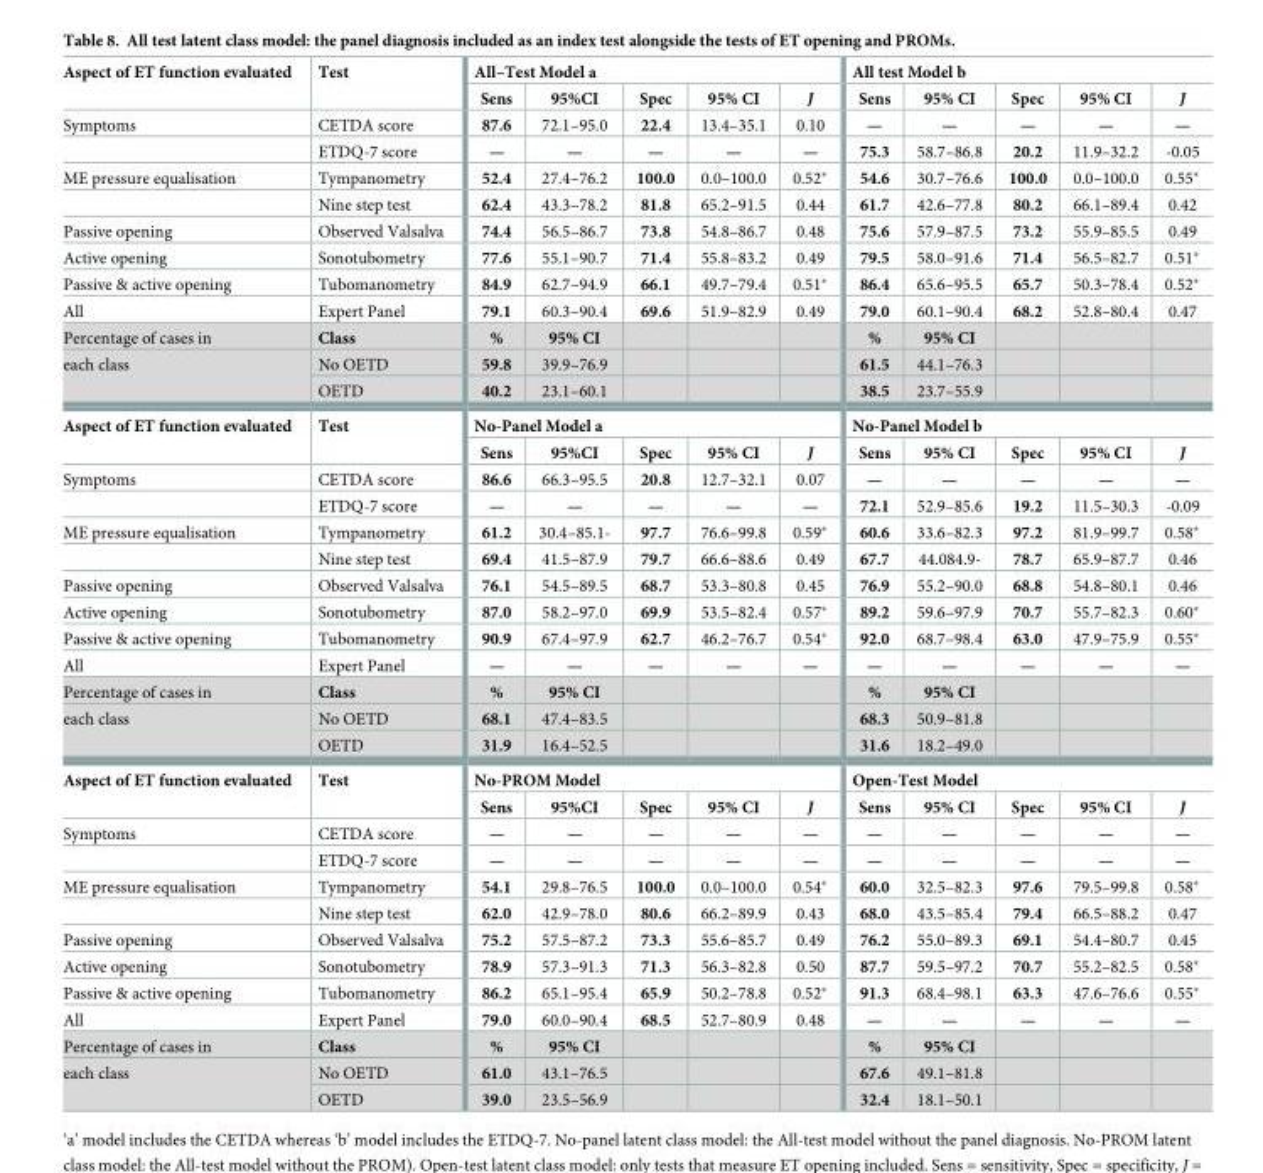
<table><tbody><tr><td rowspan="2">Aspect of ET function evaluated</td><td rowspan="2">Test</td><td colspan="5">All–Test Model a</td><td colspan="5">All test Model b</td></tr><tr><td>Sens</td><td>95%CI</td><td>Spec</td><td>95% CI</td><td>J</td><td>Sens</td><td>95% CI</td><td>Spec</td><td>95% CI</td><td>J</td></tr><tr><td rowspan="2">Symptoms</td><td>CETDA score</td><td>87.6</td><td>72.1–95.0</td><td>22.4</td><td>13.4–35.1</td><td>0.10</td><td>—</td><td>—</td><td>—</td><td>—</td><td>—</td></tr><tr><td>ETDQ-7 score</td><td>—</td><td>—</td><td>—</td><td>—</td><td>—</td><td>75.3</td><td>58.7–86.8</td><td>20.2</td><td>11.9–32.2</td><td>-0.05</td></tr><tr><td rowspan="2">ME pressure equalisation</td><td>Tympanometry</td><td>52.4</td><td>27.4–76.2</td><td>100.0</td><td>0.0–100.0</td><td>0.52*</td><td>54.6</td><td>30.7–76.6</td><td>100.0</td><td>0.0–100.0</td><td>0.55*</td></tr><tr><td>Nine step test</td><td>62.4</td><td>43.3–78.2</td><td>81.8</td><td>65.2–91.5</td><td>0.44</td><td>61.7</td><td>42.6–77.8</td><td>80.2</td><td>66.1–89.4</td><td>0.42</td></tr><tr><td>Passive opening</td><td>Observed Valsalva</td><td>74.4</td><td>56.5–86.7</td><td>73.8</td><td>54.8–86.7</td><td>0.48</td><td>75.6</td><td>57.9–87.5</td><td>73.2</td><td>55.9–85.5</td><td>0.49</td></tr><tr><td>Active opening</td><td>Sonotubometry</td><td>77.6</td><td>55.1–90.7</td><td>71.4</td><td>55.8–83.2</td><td>0.49</td><td>79.5</td><td>58.0–91.6</td><td>71.4</td><td>56.5–82.7</td><td>0.51*</td></tr><tr><td>Passive &amp; active opening</td><td>Tubomanometry</td><td>84.9</td><td>62.7–94.9</td><td>66.1</td><td>49.7–79.4</td><td>0.51*</td><td>86.4</td><td>65.6–95.5</td><td>65.7</td><td>50.3–78.4</td><td>0.52*</td></tr><tr><td>All</td><td>Expert Panel</td><td>79.1</td><td>60.3–90.4</td><td>69.6</td><td>51.9–82.9</td><td>0.49</td><td>79.0</td><td>60.1–90.4</td><td>68.2</td><td>52.8–80.4</td><td>0.47</td></tr><tr><td>Percentage of cases in</td><td>Class</td><td>%</td><td>95% CI</td><td></td><td></td><td></td><td>%</td><td>95% CI</td><td></td><td></td><td></td></tr><tr><td rowspan="2">each class</td><td>No OETD</td><td>59.8</td><td>39.9–76.9</td><td></td><td></td><td></td><td>61.5</td><td>44.1–76.3</td><td></td><td></td><td></td></tr><tr><td>OETD</td><td>40.2</td><td>23.1–60.1</td><td></td><td></td><td></td><td>38.5</td><td>23.7–55.9</td><td></td><td></td><td></td></tr><tr><td rowspan="2">Aspect of ET function evaluated</td><td rowspan="2">Test</td><td colspan="5">No-Panel Model a</td><td colspan="5">No-Panel Model b</td></tr><tr><td>Sens</td><td>95%CI</td><td>Spec</td><td>95% CI</td><td>J</td><td>Sens</td><td>95% CI</td><td>Spec</td><td>95% CI</td><td>J</td></tr><tr><td rowspan="2">Symptoms</td><td>CETDA score</td><td>86.6</td><td>66.3–95.5</td><td>20.8</td><td>12.7–32.1</td><td>0.07</td><td>—</td><td>—</td><td>—</td><td>—</td><td>—</td></tr><tr><td>ETDQ-7 score</td><td>—</td><td>—</td><td>—</td><td>—</td><td>—</td><td>72.1</td><td>52.9–85.6</td><td>19.2</td><td>11.5–30.3</td><td>-0.09</td></tr><tr><td rowspan="2">ME pressure equalisation</td><td>Tympanometry</td><td>61.2</td><td>30.4–85.1-</td><td>97.7</td><td>76.6–99.8</td><td>0.59*</td><td>60.6</td><td>33.6–82.3</td><td>97.2</td><td>81.9–99.7</td><td>0.58*</td></tr><tr><td>Nine step test</td><td>69.4</td><td>41.5–87.9</td><td>79.7</td><td>66.6–88.6</td><td>0.49</td><td>67.7</td><td>44.084.9-</td><td>78.7</td><td>65.9–87.7</td><td>0.46</td></tr><tr><td>Passive opening</td><td>Observed Valsalva</td><td>76.1</td><td>54.5–89.5</td><td>68.7</td><td>53.3–80.8</td><td>0.45</td><td>76.9</td><td>55.2–90.0</td><td>68.8</td><td>54.8–80.1</td><td>0.46</td></tr><tr><td>Active opening</td><td>Sonotubometry</td><td>87.0</td><td>58.2–97.0</td><td>69.9</td><td>53.5–82.4</td><td>0.57*</td><td>89.2</td><td>59.6–97.9</td><td>70.7</td><td>55.7–82.3</td><td>0.60*</td></tr><tr><td>Passive &amp; active opening</td><td>Tubomanometry</td><td>90.9</td><td>67.4–97.9</td><td>62.7</td><td>46.2–76.7</td><td>0.54*</td><td>92.0</td><td>68.7–98.4</td><td>63.0</td><td>47.9–75.9</td><td>0.55*</td></tr><tr><td>All</td><td>Expert Panel</td><td>—</td><td>—</td><td>—</td><td>—</td><td>—</td><td>—</td><td>—</td><td>—</td><td>—</td><td>—</td></tr><tr><td>Percentage of cases in</td><td>Class</td><td>%</td><td>95% CI</td><td></td><td></td><td></td><td>%</td><td>95% CI</td><td></td><td></td><td></td></tr><tr><td rowspan="2">each class</td><td>No OETD</td><td>68.1</td><td>47.4–83.5</td><td></td><td></td><td></td><td>68.3</td><td>50.9–81.8</td><td></td><td></td><td></td></tr><tr><td>OETD</td><td>31.9</td><td>16.4–52.5</td><td></td><td></td><td></td><td>31.6</td><td>18.2–49.0</td><td></td><td></td><td></td></tr><tr><td rowspan="2">Aspect of ET function evaluated</td><td rowspan="2">Test</td><td colspan="5">No-PROM Model</td><td colspan="5">Open-Test Model</td></tr><tr><td>Sens</td><td>95%CI</td><td>Spec</td><td>95% CI</td><td>J</td><td>Sens</td><td>95% CI</td><td>Spec</td><td>95% CI</td><td>J</td></tr><tr><td rowspan="2">Symptoms</td><td>CETDA score</td><td>—</td><td>—</td><td>—</td><td>—</td><td>—</td><td>—</td><td>—</td><td>—</td><td>—</td><td>—</td></tr><tr><td>ETDQ-7 score</td><td>—</td><td>—</td><td>—</td><td>—</td><td>—</td><td>—</td><td>—</td><td>—</td><td>—</td><td>—</td></tr><tr><td rowspan="2">ME pressure equalisation</td><td>Tympanometry</td><td>54.1</td><td>29.8–76.5</td><td>100.0</td><td>0.0–100.0</td><td>0.54*</td><td>60.0</td><td>32.5–82.3</td><td>97.6</td><td>79.5–99.8</td><td>0.58*</td></tr><tr><td>Nine step test</td><td>62.0</td><td>42.9–78.0</td><td>80.6</td><td>66.2–89.9</td><td>0.43</td><td>68.0</td><td>43.5–85.4</td><td>79.4</td><td>66.5–88.2</td><td>0.47</td></tr><tr><td>Passive opening</td><td>Observed Valsalva</td><td>75.2</td><td>57.5–87.2</td><td>73.3</td><td>55.6–85.7</td><td>0.49</td><td>76.2</td><td>55.0–89.3</td><td>69.1</td><td>54.4–80.7</td><td>0.45</td></tr><tr><td>Active opening</td><td>Sonotubometry</td><td>78.9</td><td>57.3–91.3</td><td>71.3</td><td>56.3–82.8</td><td>0.50</td><td>87.7</td><td>59.5–97.2</td><td>70.7</td><td>55.2–82.5</td><td>0.58*</td></tr><tr><td>Passive &amp; active opening</td><td>Tubomanometry</td><td>86.2</td><td>65.1–95.4</td><td>65.9</td><td>50.2–78.8</td><td>0.52*</td><td>91.3</td><td>68.4–98.1</td><td>63.3</td><td>47.6–76.6</td><td>0.55*</td></tr><tr><td>All</td><td>Expert Panel</td><td>79.0</td><td>60.0–90.4</td><td>68.5</td><td>52.7–80.9</td><td>0.48</td><td>—</td><td>—</td><td>—</td><td>—</td><td>—</td></tr><tr><td>Percentage of cases in</td><td>Class</td><td>%</td><td>95% CI</td><td></td><td></td><td></td><td>%</td><td>95% CI</td><td></td><td></td><td></td></tr><tr><td rowspan="2">each class</td><td>No OETD</td><td>61.0</td><td>43.1–76.5</td><td></td><td></td><td></td><td>67.6</td><td>49.1–81.8</td><td></td><td></td><td></td></tr><tr><td>OETD</td><td>39.0</td><td>23.5–56.9</td><td></td><td></td><td></td><td>32.4</td><td>18.1–50.1</td><td></td><td></td><td></td></tr></tbody></table>